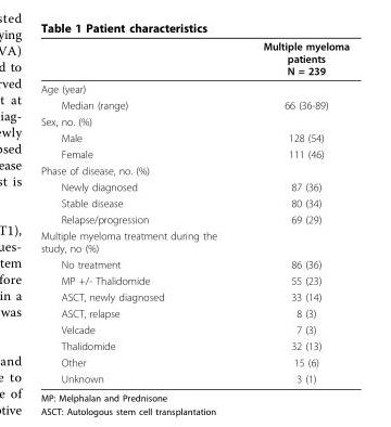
<table><thead><tr><td></td><td>Multiple myeloma patients N = 239</td></tr></thead><tbody><tr><td colspan="2">Age (year)</td></tr><tr><td>Median (range)</td><td>66 (36-89)</td></tr><tr><td colspan="2">Sex, no. (%)</td></tr><tr><td>Male</td><td>128 (54)</td></tr><tr><td>Female</td><td>111 (46)</td></tr><tr><td colspan="2">Phase of disease, no. (%)</td></tr><tr><td>Newly diagnosed</td><td>87 (36)</td></tr><tr><td>Stable disease</td><td>80 (34)</td></tr><tr><td>Relapse/progression</td><td>69 (29)</td></tr><tr><td colspan="2">Multiple myeloma treatment during the study, no (%)</td></tr><tr><td>No treatment</td><td>86 (36)</td></tr><tr><td>MP +/- Thalidomide</td><td>55 (23)</td></tr><tr><td>ASCT, newly diagnosed</td><td>33 (14)</td></tr><tr><td>ASCT, relapse</td><td>8 (3)</td></tr><tr><td>Velcade</td><td>7 (3)</td></tr><tr><td>Thalidomide</td><td>32 (13)</td></tr><tr><td>Other</td><td>15 (6)</td></tr><tr><td>Unknown</td><td>3 (1)</td></tr></tbody></table>